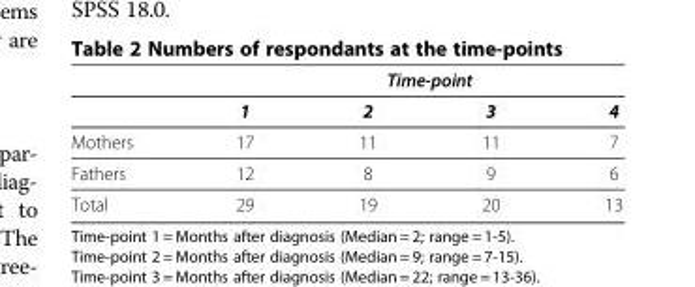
<table><thead><tr><td rowspan="2"></td><td colspan="4">Time-point</td></tr><tr><td>1</td><td>2</td><td>3</td><td>4</td></tr></thead><tbody><tr><td>Mothers</td><td>17</td><td>11</td><td>11</td><td>7</td></tr><tr><td>Fathers</td><td>12</td><td>8</td><td>9</td><td>6</td></tr><tr><td>Total</td><td>29</td><td>19</td><td>20</td><td>13</td></tr></tbody></table>